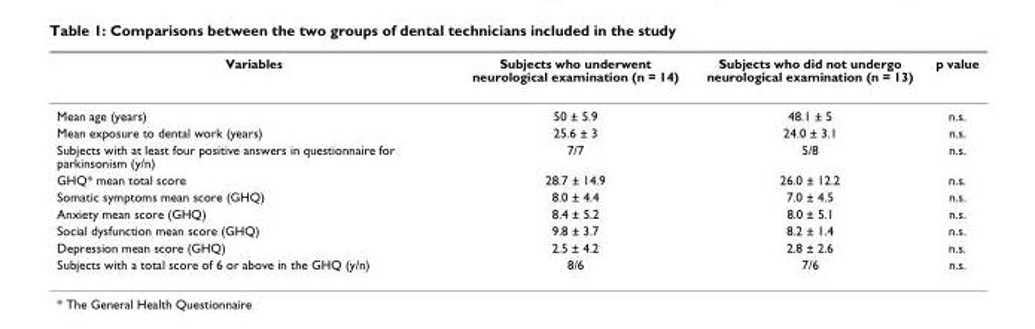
<table><thead><tr><td>Variables</td><td>Subjects who underwent neurological examination (n = 14)</td><td>Subjects who did not undergo neurological examination (n = 13)</td><td>p value</td></tr></thead><tbody><tr><td>Mean age (years)</td><td>50 ± 5.9</td><td>48.1 ± 5</td><td>n.s.</td></tr><tr><td>Mean exposure to dental work (years)</td><td>25.6 ± 3</td><td>24.0 ± 3.1</td><td>n.s.</td></tr><tr><td>Subjects with at least four positive answers in questionnaire for parkinsonism (y/n)</td><td>7/7</td><td>5/8</td><td>n.s.</td></tr><tr><td>GHQ* mean total score</td><td>28.7 ± 14.9</td><td>26.0 ± 12.2</td><td>n.s.</td></tr><tr><td>Somatic symptoms mean score (GHQ)</td><td>8.0 ± 4.4</td><td>7.0 ± 4.5</td><td>n.s.</td></tr><tr><td>Anxiety mean score (GHQ)</td><td>8.4 ± 5.2</td><td>8.0 ± 5.1</td><td>n.s.</td></tr><tr><td>Social dysfunction mean score (GHQ)</td><td>9.8 ± 3.7</td><td>8.2 ± 1.4</td><td>n.s.</td></tr><tr><td>Depression mean score (GHQ)</td><td>2.5 ± 4.2</td><td>2.8 ± 2.6</td><td>n.s.</td></tr><tr><td>Subjects with a total score of 6 or above in the GHQ (y/n)</td><td>8/6</td><td>7/6</td><td>n.s.</td></tr></tbody></table>